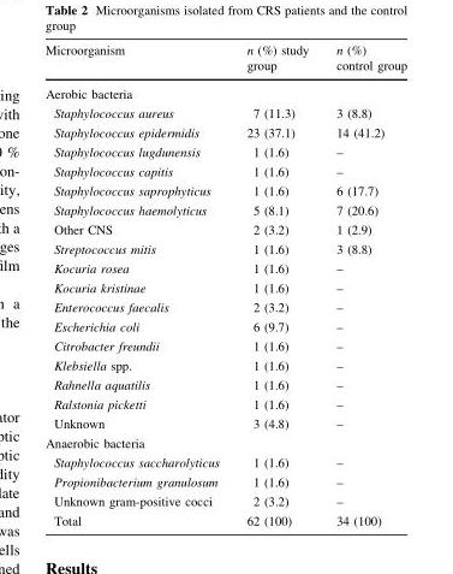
<table><thead><tr><td>Microorganism</td><td>n (%) study group</td><td>n (%) control group</td></tr></thead><tbody><tr><td colspan="3">Aerobic bacteria</td></tr><tr><td>Staphylococcus aureus</td><td>7 (11.3)</td><td>3 (8.8)</td></tr><tr><td>Staphylococcus epidermidis</td><td>23 (37.1)</td><td>14 (41.2)</td></tr><tr><td>Staphylococcus lugdunensis</td><td>1 (1.6)</td><td>–</td></tr><tr><td>Staphylococcus capitis</td><td>1 (1.6)</td><td>–</td></tr><tr><td>Staphylococcus saprophyticus</td><td>1 (1.6)</td><td>6 (17.7)</td></tr><tr><td>Staphylococcus haemolyticus</td><td>5 (8.1)</td><td>7 (20.6)</td></tr><tr><td>Other CNS</td><td>2 (3.2)</td><td>1 (2.9)</td></tr><tr><td>Streptococcus mitis</td><td>1 (1.6)</td><td>3 (8.8)</td></tr><tr><td>Kocuria rosea</td><td>1 (1.6)</td><td>–</td></tr><tr><td>Kocuria kristinae</td><td>1 (1.6)</td><td>–</td></tr><tr><td>Enterococcus faecalis</td><td>2 (3.2)</td><td>–</td></tr><tr><td>Escherichia coli</td><td>6 (9.7)</td><td>–</td></tr><tr><td>Citrobacter freundii</td><td>1 (1.6)</td><td>–</td></tr><tr><td>Klebsiella spp.</td><td>1 (1.6)</td><td>–</td></tr><tr><td>Rahnella aquatilis</td><td>1 (1.6)</td><td>–</td></tr><tr><td>Ralstonia picketti</td><td>1 (1.6)</td><td>–</td></tr><tr><td>Unknown</td><td>3 (4.8)</td><td>–</td></tr><tr><td colspan="3">Anaerobic bacteria</td></tr><tr><td>Staphylococcus saccharolyticus</td><td>1 (1.6)</td><td>–</td></tr><tr><td>Propionibacterium granulosum</td><td>1 (1.6)</td><td>–</td></tr><tr><td>Unknown gram-positive cocci</td><td>2 (3.2)</td><td>–</td></tr><tr><td>Total</td><td>62 (100)</td><td>34 (100)</td></tr></tbody></table>